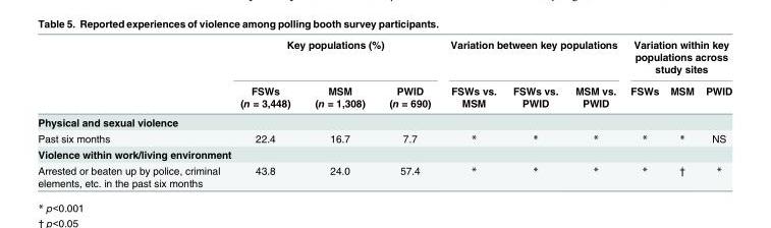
<table><thead><tr><td rowspan="2"></td><td colspan="3">Key populations (%)</td><td colspan="3">Variation between key populations</td><td colspan="3">Variation within key populations across study sites</td></tr><tr><td>FSWs (n = 3,448)</td><td>MSM (n = 1,308)</td><td>PWID (n = 690)</td><td>FSWs vs. MSM</td><td>FSWs vs. PWID</td><td>MSM vs. PWID</td><td>FSWs</td><td>MSM</td><td>PWID</td></tr></thead><tbody><tr><td colspan="10">Physical and sexual violence</td></tr><tr><td>Past six months</td><td>22.4</td><td>16.7</td><td>7.7</td><td>*</td><td>*</td><td>*</td><td>*</td><td>*</td><td>NS</td></tr><tr><td colspan="10">Violence within work/living environment</td></tr><tr><td>Arrested or beaten up by police, criminal elements, etc. in the past six months</td><td>43.8</td><td>24.0</td><td>57.4</td><td>*</td><td>*</td><td>*</td><td>*</td><td>†</td><td>*</td></tr></tbody></table>